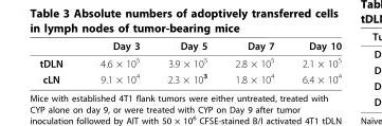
<table><thead><tr><td></td><td>Day 3</td><td>Day 5</td><td>Day 7</td><td>Day 10</td></tr></thead><tbody><tr><td>tDLN</td><td>4.6 × 10<sup>5</sup></td><td>3.9 × 10<sup>5</sup></td><td>2.8 × 10<sup>5</sup></td><td>2.1 × 10<sup>5</sup></td></tr><tr><td>cLN</td><td>9.1 × 10<sup>4</sup></td><td>2.3 × 10<sup>3</sup></td><td>1.8 × 10<sup>4</sup></td><td>6.4 × 10<sup>4</sup></td></tr></tbody></table>